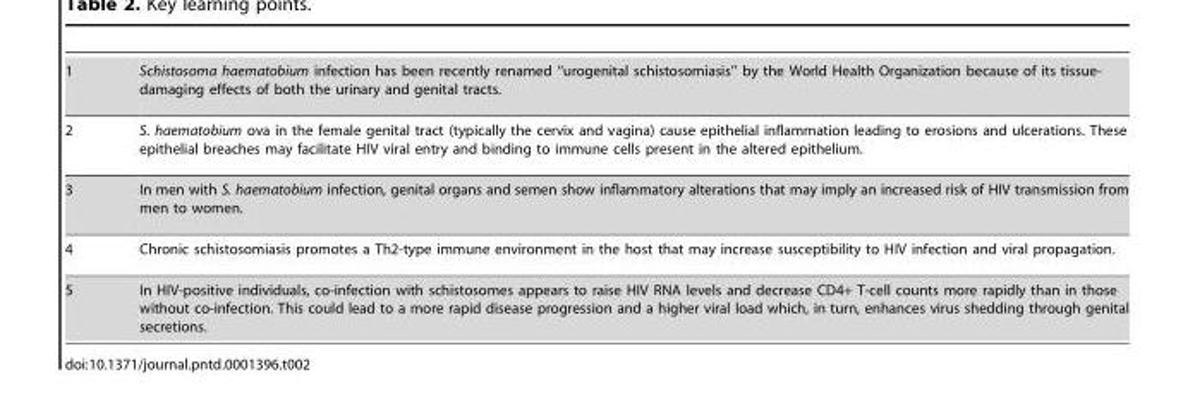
<table><tbody><tr><td>1</td><td>Schistosoma haematobium infection has been recently renamed ‘‘urogenital schistosomiasis’’ by the World Health Organization because of its tissue- damaging effects of both the urinary and genital tracts.</td></tr><tr><td>2</td><td>S. haematobium ova in the female genital tract (typically the cervix and vagina) cause epithelial inflammation leading to erosions and ulcerations. These epithelial breaches may facilitate HIV viral entry and binding to immune cells present in the altered epithelium.</td></tr><tr><td>3</td><td>In men with S. haematobium infection, genital organs and semen show inflammatory alterations that may imply an increased risk of HIV transmission from men to women.</td></tr><tr><td>4</td><td>Chronic schistosomiasis promotes a Th2-type immune environment in the host that may increase susceptibility to HIV infection and viral propagation.</td></tr><tr><td>5</td><td>In HIV-positive individuals, co-infection with schistosomes appears to raise HIV RNA levels and decrease CD4+ T-cell counts more rapidly than in those without co-infection. This could lead to a more rapid disease progression and a higher viral load which, in turn, enhances virus shedding through genital secretions.</td></tr></tbody></table>